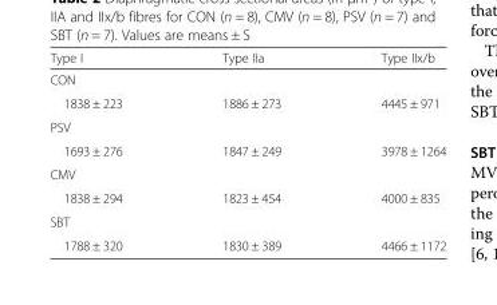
<table><thead><tr><td>Type I</td><td>Type IIa</td><td>Type IIx/b</td></tr></thead><tbody><tr><td colspan="3">CON</td></tr><tr><td>1838 ± 223</td><td>1886 ± 273</td><td>4445 ± 971</td></tr><tr><td colspan="3">PSV</td></tr><tr><td>1693 ± 276</td><td>1847 ± 249</td><td>3978 ± 1264</td></tr><tr><td colspan="3">CMV</td></tr><tr><td>1838 ± 294</td><td>1823 ± 454</td><td>4000 ± 835</td></tr><tr><td colspan="3">SBT</td></tr><tr><td>1788 ± 320</td><td>1830 ± 389</td><td>4466 ± 1172</td></tr></tbody></table>